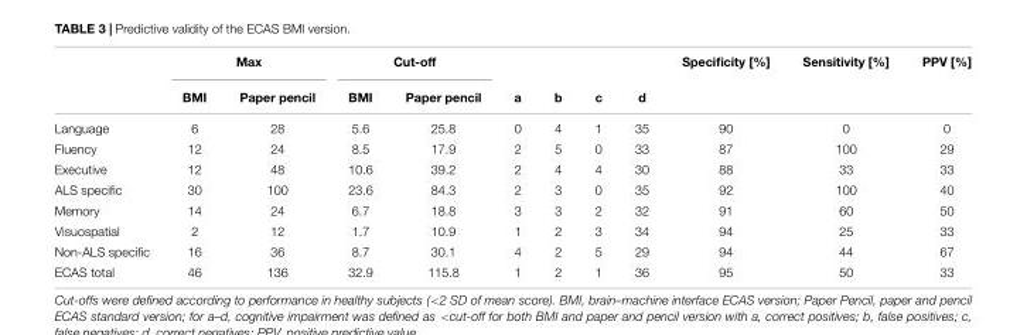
<table><thead><tr><td rowspan="2"></td><td colspan="2">Max</td><td colspan="2">Cut-off</td><td rowspan="2">a</td><td rowspan="2">b</td><td rowspan="2">c</td><td rowspan="2">d</td><td rowspan="2">Specificity [%]</td><td rowspan="2">Sensitivity [%]</td><td rowspan="2">PPV [%]</td></tr><tr><td>BMI</td><td>Paper pencil</td><td>BMI</td><td>Paper pencil</td></tr></thead><tbody><tr><td>Language</td><td>6</td><td>28</td><td>5.6</td><td>25.8</td><td>0</td><td>4</td><td>1</td><td>35</td><td>90</td><td>0</td><td>0</td></tr><tr><td>Fluency</td><td>12</td><td>24</td><td>8.5</td><td>17.9</td><td>2</td><td>5</td><td>0</td><td>33</td><td>87</td><td>100</td><td>29</td></tr><tr><td>Executive</td><td>12</td><td>48</td><td>10.6</td><td>39.2</td><td>2</td><td>4</td><td>4</td><td>30</td><td>88</td><td>33</td><td>33</td></tr><tr><td>ALS specific</td><td>30</td><td>100</td><td>23.6</td><td>84.3</td><td>2</td><td>3</td><td>0</td><td>35</td><td>92</td><td>100</td><td>40</td></tr><tr><td>Memory</td><td>14</td><td>24</td><td>6.7</td><td>18.8</td><td>3</td><td>3</td><td>2</td><td>32</td><td>91</td><td>60</td><td>50</td></tr><tr><td>Visuospatial</td><td>2</td><td>12</td><td>1.7</td><td>10.9</td><td>1</td><td>2</td><td>3</td><td>34</td><td>94</td><td>25</td><td>33</td></tr><tr><td>Non-ALS specific</td><td>16</td><td>36</td><td>8.7</td><td>30.1</td><td>4</td><td>2</td><td>5</td><td>29</td><td>94</td><td>44</td><td>67</td></tr><tr><td>ECAS total</td><td>46</td><td>136</td><td>32.9</td><td>115.8</td><td>1</td><td>2</td><td>1</td><td>36</td><td>95</td><td>50</td><td>33</td></tr></tbody></table>